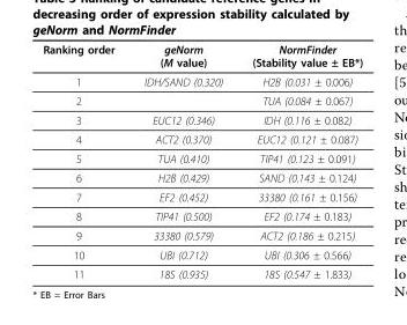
<table><thead><tr><td>Ranking order</td><td>geNorm (M value)</td><td>NormFinder (Stability value ± EB*)</td></tr></thead><tbody><tr><td>1</td><td>IDH/SAND (0.320)</td><td>H2B (0.031 ± 0.006)</td></tr><tr><td>2</td><td></td><td>TUA (0.084 ± 0.067)</td></tr><tr><td>3</td><td>EUC12 (0.346)</td><td>IDH (0.116 ± 0.082)</td></tr><tr><td>4</td><td>ACT2 (0.370)</td><td>EUC12 (0.121 ± 0.087)</td></tr><tr><td>5</td><td>TUA (0.410)</td><td>TIP41 (0.123 ± 0.091)</td></tr><tr><td>6</td><td>H2B (0.429)</td><td>SAND (0.143 ± 0.124)</td></tr><tr><td>7</td><td>EF2 (0.452)</td><td>33380 (0.161 ± 0.156)</td></tr><tr><td>8</td><td>TIP41 (0.500)</td><td>EF2 (0.174 ± 0.183)</td></tr><tr><td>9</td><td>33380 (0.579)</td><td>ACT2 (0.186 ± 0.215)</td></tr><tr><td>10</td><td>UBI (0.712)</td><td>UBI (0.306 ± 0.566)</td></tr><tr><td>11</td><td>18S (0.935)</td><td>18S (0.547 ± 1.833)</td></tr></tbody></table>